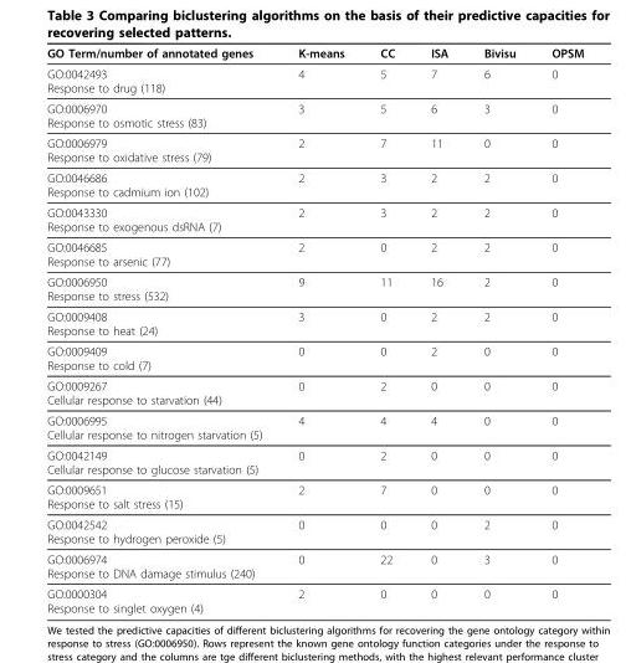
<table><thead><tr><td>GO Term/number of annotated genes</td><td>K-means</td><td>CC</td><td>ISA</td><td>Bivisu</td><td>OPSM</td></tr></thead><tbody><tr><td>GO:0042493 Response to drug (118)</td><td>4</td><td>5</td><td>7</td><td>6</td><td>0</td></tr><tr><td>GO:0006970 Response to osmotic stress (83)</td><td>3</td><td>5</td><td>6</td><td>3</td><td>0</td></tr><tr><td>GO:0006979 Response to oxidative stress (79)</td><td>2</td><td>7</td><td>11</td><td>0</td><td>0</td></tr><tr><td>GO:0046686 Response to cadmium ion (102)</td><td>2</td><td>3</td><td>2</td><td>2</td><td>0</td></tr><tr><td>GO:0043330 Response to exogenous dsRNA (7)</td><td>2</td><td>3</td><td>2</td><td>2</td><td>0</td></tr><tr><td>GO:0046685 Response to arsenic (77)</td><td>2</td><td>0</td><td>2</td><td>2</td><td>0</td></tr><tr><td>GO:0006950 Response to stress (532)</td><td>9</td><td>11</td><td>16</td><td>2</td><td>0</td></tr><tr><td>GO:0009408 Response to heat (24)</td><td>3</td><td>0</td><td>2</td><td>2</td><td>0</td></tr><tr><td>GO:0009409 Response to cold (7)</td><td>0</td><td>0</td><td>2</td><td>0</td><td>0</td></tr><tr><td>GO:0009267 Cellular response to starvation (44)</td><td>0</td><td>2</td><td>0</td><td>0</td><td>0</td></tr><tr><td>GO:0006995 Cellular response to nitrogen starvation (5)</td><td>4</td><td>4</td><td>4</td><td>0</td><td>0</td></tr><tr><td>GO:0042149 Cellular response to glucose starvation (5)</td><td>0</td><td>2</td><td>0</td><td>0</td><td>0</td></tr><tr><td>GO:0009651 Response to salt stress (15)</td><td>2</td><td>7</td><td>0</td><td>0</td><td>0</td></tr><tr><td>GO:0042542 Response to hydrogen peroxide (5)</td><td>0</td><td>0</td><td>0</td><td>2</td><td>0</td></tr><tr><td>GO:0006974 Response to DNA damage stimulus (240)</td><td>0</td><td>22</td><td>0</td><td>3</td><td>0</td></tr><tr><td>GO:0000304 Response to singlet oxygen (4)</td><td>2</td><td>0</td><td>0</td><td>0</td><td>0</td></tr></tbody></table>